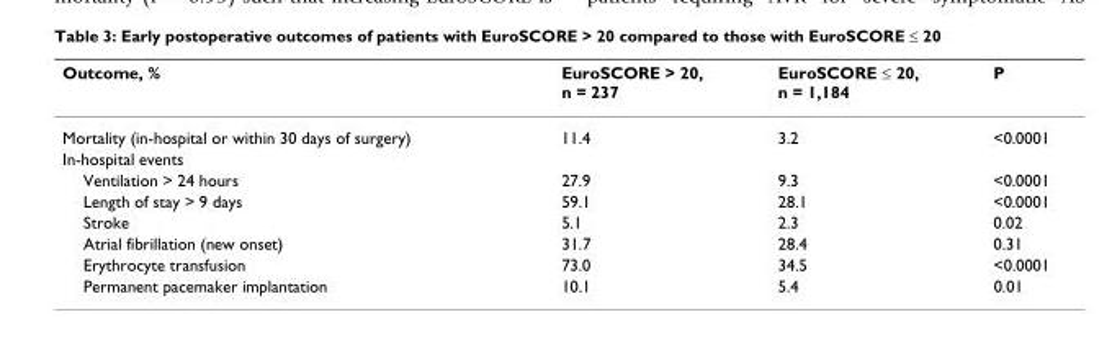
<table><thead><tr><td>Outcome, %</td><td>EuroSCORE &gt; 20, n = 237</td><td>EuroSCORE ≤ 20, n = 1,184</td><td>P</td></tr></thead><tbody><tr><td>Mortality (in-hospital or within 30 days of surgery)</td><td>11.4</td><td>3.2</td><td>&lt;0.0001</td></tr><tr><td colspan="4">In-hospital events</td></tr><tr><td>Ventilation &gt; 24 hours</td><td>27.9</td><td>9.3</td><td>&lt;0.0001</td></tr><tr><td>Length of stay &gt; 9 days</td><td>59.1</td><td>28.1</td><td>&lt;0.0001</td></tr><tr><td>Stroke</td><td>5.1</td><td>2.3</td><td>0.02</td></tr><tr><td>Atrial fibrillation (new onset)</td><td>31.7</td><td>28.4</td><td>0.31</td></tr><tr><td>Erythrocyte transfusion</td><td>73.0</td><td>34.5</td><td>&lt;0.0001</td></tr><tr><td>Permanent pacemaker implantation</td><td>10.1</td><td>5.4</td><td>0.01</td></tr></tbody></table>